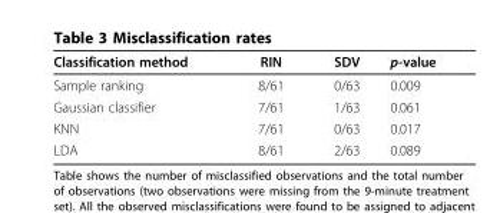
<table><thead><tr><td>Classification method</td><td>RIN</td><td>SDV</td><td>p-value</td></tr></thead><tbody><tr><td>Sample ranking</td><td>8/61</td><td>0/63</td><td>0.009</td></tr><tr><td>Gaussian classifier</td><td>7/61</td><td>1/63</td><td>0.061</td></tr><tr><td>KNN</td><td>7/61</td><td>0/63</td><td>0.017</td></tr><tr><td>LDA</td><td>8/61</td><td>2/63</td><td>0.089</td></tr></tbody></table>